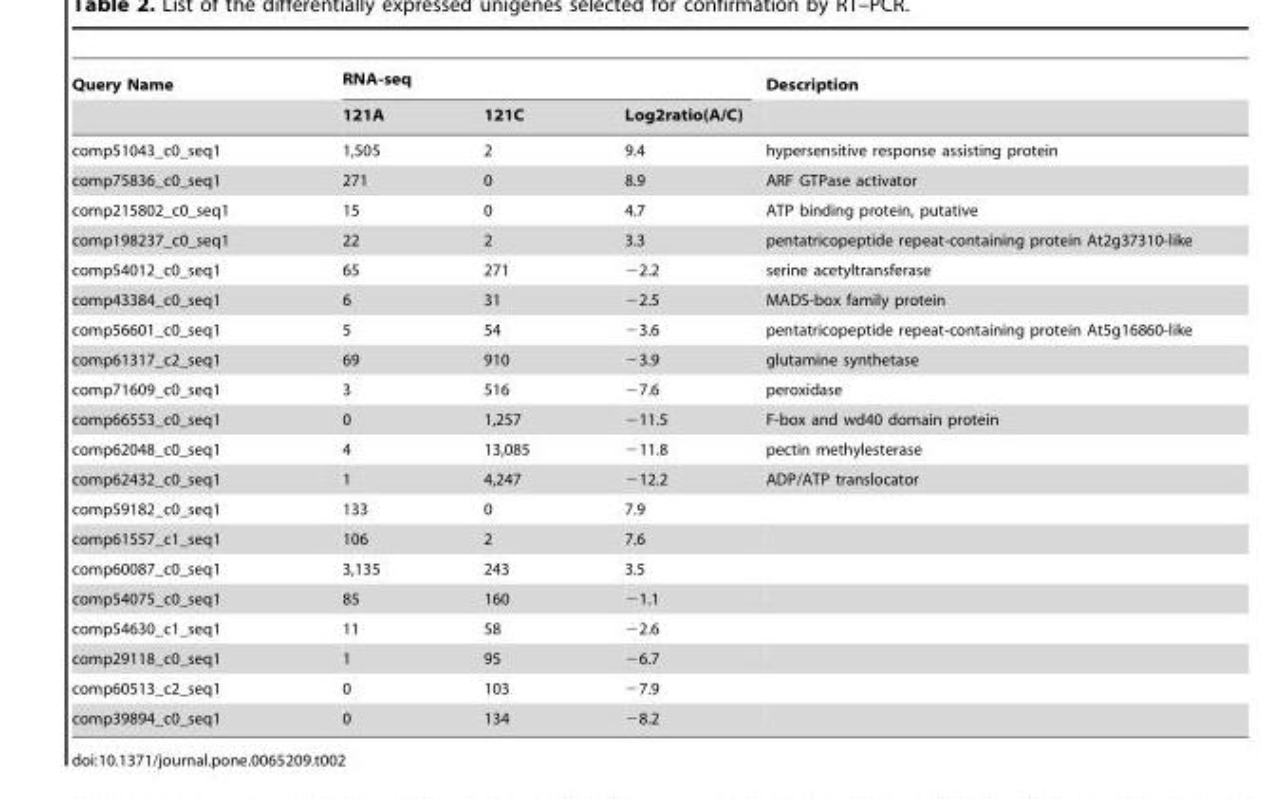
<table><thead><tr><td rowspan="2">Query Name</td><td colspan="3">RNA-seq</td><td rowspan="2">Description</td></tr><tr><td>121A</td><td>121C</td><td>Log2ratio(A/C)</td></tr></thead><tbody><tr><td>comp51043_c0_seq1</td><td>1,505</td><td>2</td><td>9.4</td><td>hypersensitive response assisting protein</td></tr><tr><td>comp75836_c0_seq1</td><td>271</td><td>0</td><td>8.9</td><td>ARF GTPase activator</td></tr><tr><td>comp215802_c0_seq1</td><td>15</td><td>0</td><td>4.7</td><td>ATP binding protein, putative</td></tr><tr><td>comp198237_c0_seq1</td><td>22</td><td>2</td><td>3.3</td><td>pentatricopeptide repeat-containing protein At2g37310-like</td></tr><tr><td>comp54012_c0_seq1</td><td>65</td><td>271</td><td>−2.2</td><td>serine acetyltransferase</td></tr><tr><td>comp43384_c0_seq1</td><td>6</td><td>31</td><td>−2.5</td><td>MADS-box family protein</td></tr><tr><td>comp56601_c0_seq1</td><td>5</td><td>54</td><td>−3.6</td><td>pentatricopeptide repeat-containing protein At5g16860-like</td></tr><tr><td>comp61317_c2_seq1</td><td>69</td><td>910</td><td>−3.9</td><td>glutamine synthetase</td></tr><tr><td>comp71609_c0_seq1</td><td>3</td><td>516</td><td>−7.6</td><td>peroxidase</td></tr><tr><td>comp66553_c0_seq1</td><td>0</td><td>1,257</td><td>−11.5</td><td>F-box and wd40 domain protein</td></tr><tr><td>comp62048_c0_seq1</td><td>4</td><td>13,085</td><td>−11.8</td><td>pectin methylesterase</td></tr><tr><td>comp62432_c0_seq1</td><td>1</td><td>4,247</td><td>−12.2</td><td>ADP/ATP translocator</td></tr><tr><td>comp59182_c0_seq1</td><td>133</td><td>0</td><td>7.9</td><td></td></tr><tr><td>comp61557_c1_seq1</td><td>106</td><td>2</td><td>7.6</td><td></td></tr><tr><td>comp60087_c0_seq1</td><td>3,135</td><td>243</td><td>3.5</td><td></td></tr><tr><td>comp54075_c0_seq1</td><td>85</td><td>160</td><td>−1.1</td><td></td></tr><tr><td>comp54630_c1_seq1</td><td>11</td><td>58</td><td>−2.6</td><td></td></tr><tr><td>comp29118_c0_seq1</td><td>1</td><td>95</td><td>−6.7</td><td></td></tr><tr><td>comp60513_c2_seq1</td><td>0</td><td>103</td><td>−7.9</td><td></td></tr><tr><td>comp39894_c0_seq1</td><td>0</td><td>134</td><td>−8.2</td><td></td></tr></tbody></table>